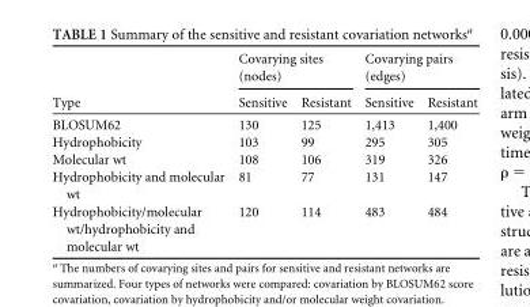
<table><thead><tr><td rowspan="2">Type</td><td colspan="2">Covarying sites (nodes)</td><td colspan="2">Covarying pairs (edges)</td></tr><tr><td>Sensitive</td><td>Resistant</td><td>Sensitive</td><td>Resistant</td></tr></thead><tbody><tr><td>BLOSUM62</td><td>130</td><td>125</td><td>1,413</td><td>1,400</td></tr><tr><td>Hydrophobicity</td><td>103</td><td>99</td><td>295</td><td>305</td></tr><tr><td>Molecular wt</td><td>108</td><td>106</td><td>319</td><td>326</td></tr><tr><td>Hydrophobicity and molecular wt</td><td>81</td><td>77</td><td>131</td><td>147</td></tr><tr><td>Hydrophobicity/molecular wt/hydrophobicity and molecular wt</td><td>120</td><td>114</td><td>483</td><td>484</td></tr></tbody></table>